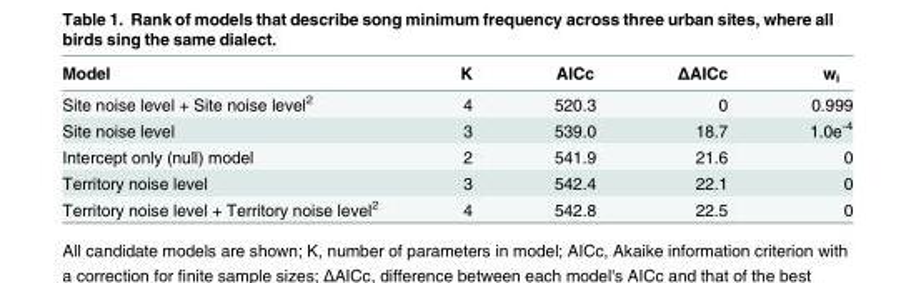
<table><thead><tr><td>Model</td><td>K</td><td>AICc</td><td>ΔAICc</td><td>w<sub>i</sub></td></tr></thead><tbody><tr><td>Site noise level + Site noise level<sup>2</sup></td><td>4</td><td>520.3</td><td>0</td><td>0.999</td></tr><tr><td>Site noise level</td><td>3</td><td>539.0</td><td>18.7</td><td>1.0e<sup>-4</sup></td></tr><tr><td>Intercept only (null) model</td><td>2</td><td>541.9</td><td>21.6</td><td>0</td></tr><tr><td>Territory noise level</td><td>3</td><td>542.4</td><td>22.1</td><td>0</td></tr><tr><td>Territory noise level + Territory noise level<sup>2</sup></td><td>4</td><td>542.8</td><td>22.5</td><td>0</td></tr></tbody></table>